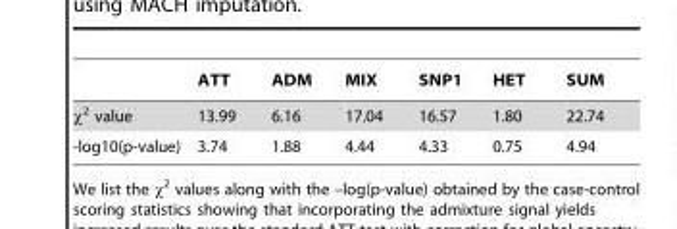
<table><thead><tr><td></td><td>ATT</td><td>ADM</td><td>MIX</td><td>SNP1</td><td>HET</td><td>SUM</td></tr></thead><tbody><tr><td>χ<sup>2</sup> value</td><td>13.99</td><td>6.16</td><td>17.04</td><td>16.57</td><td>1.80</td><td>22.74</td></tr><tr><td>-log10(p-value)</td><td>3.74</td><td>1.88</td><td>4.44</td><td>4.33</td><td>0.75</td><td>4.94</td></tr></tbody></table>